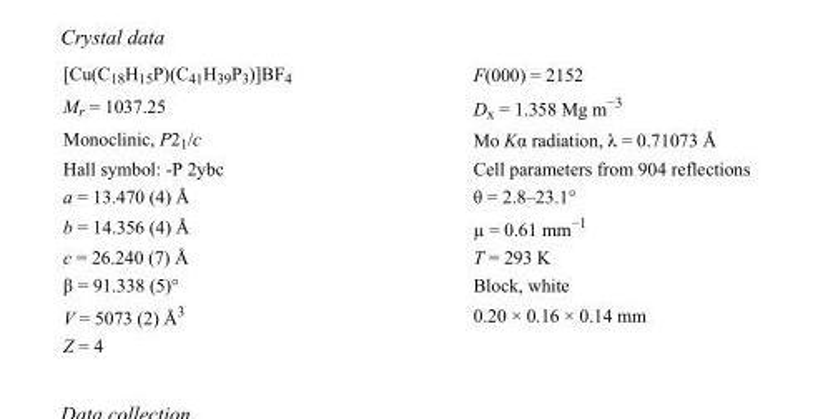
<table><tbody><tr><td>[Cu(C<sub>18</sub>H<sub>15</sub>P)(C<sub>41</sub>H<sub>39</sub>P<sub>3</sub>)]BF<sub>4</sub></td><td>F(000) = 2152</td></tr><tr><td>M<sub>r</sub> = 1037.25</td><td>D<sub>x</sub> = 1.358 Mg m<sup>−3</sup></td></tr><tr><td>Monoclinic, P2<sub>1</sub>/c</td><td>Mo Kα radiation, λ = 0.71073 Å</td></tr><tr><td>Hall symbol: -P 2ybc</td><td>Cell parameters from 904 reflections</td></tr><tr><td>a = 13.470 (4) Å</td><td>θ = 2.8–23.1°</td></tr><tr><td>b = 14.356 (4) Å</td><td>µ = 0.61 mm<sup>−1</sup></td></tr><tr><td>c = 26.240 (7) Å</td><td>T = 293 K</td></tr><tr><td>β = 91.338 (5)°</td><td>Block, white</td></tr><tr><td>V = 5073 (2) Å<sup>3</sup></td><td>0.20 × 0.16 × 0.14 mm</td></tr><tr><td>Z = 4</td><td></td></tr></tbody></table>